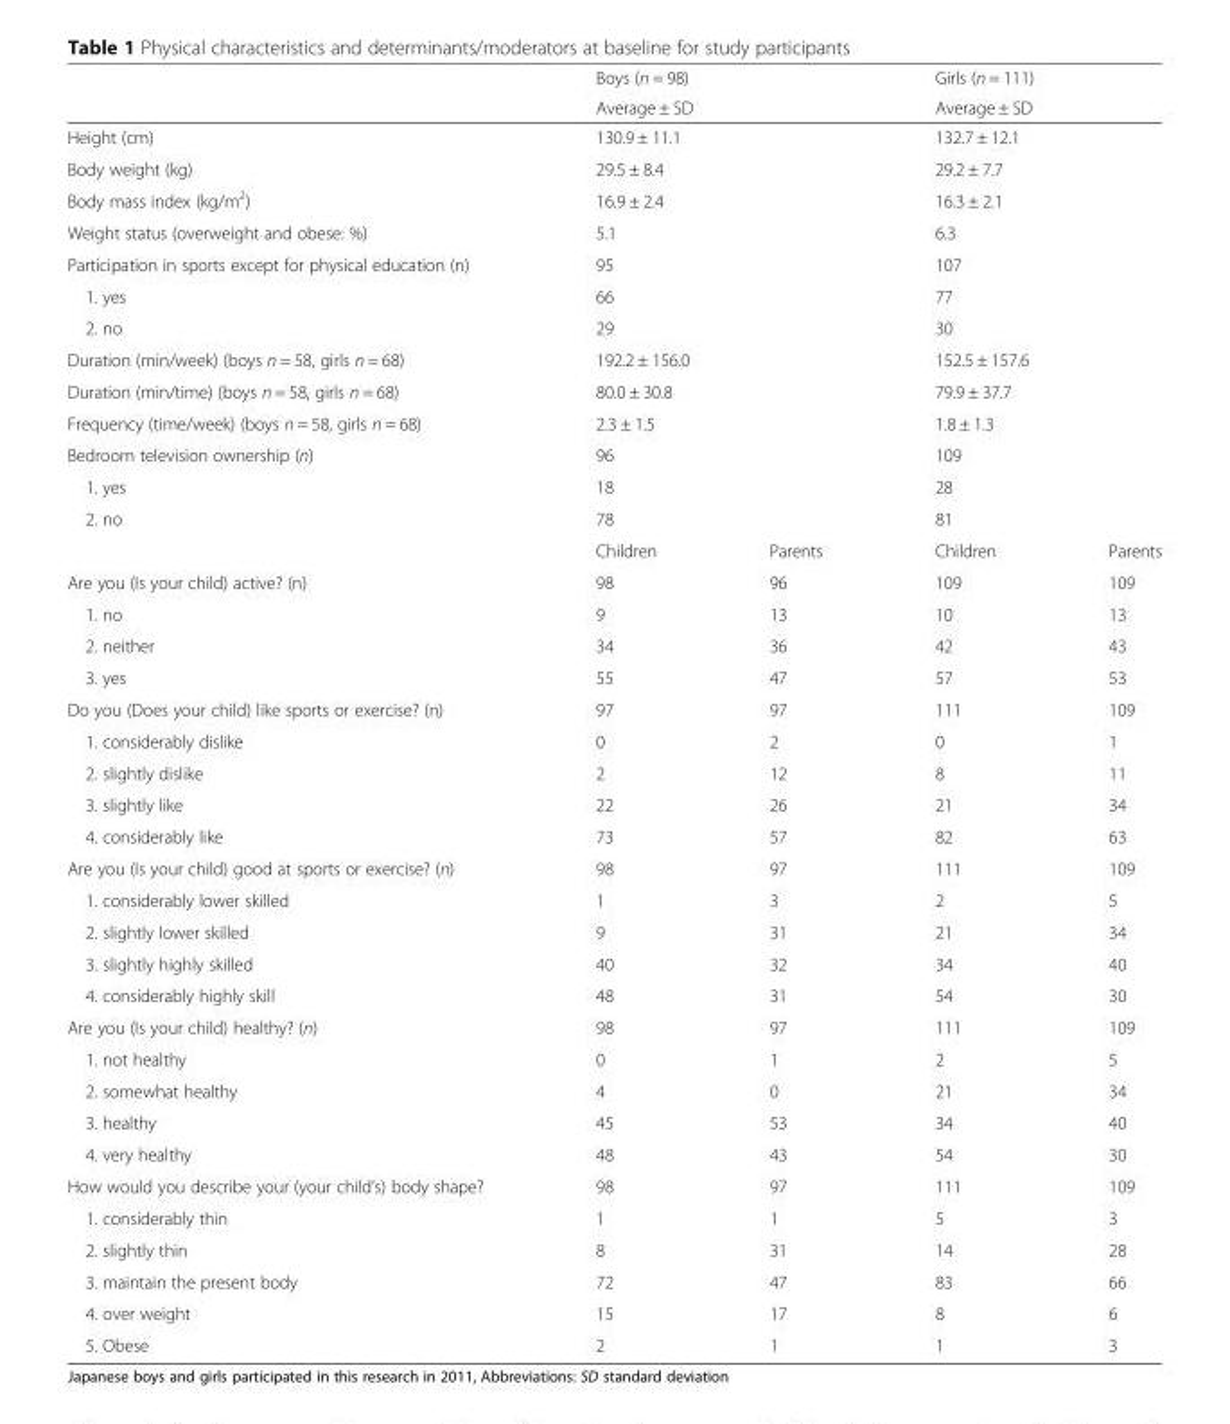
<table><thead><tr><td rowspan="2"></td><td rowspan="2" colspan="2">Boys (n = 98) Average ± SD</td><td rowspan="2" colspan="2">Girls (n = 111) Average ± SD</td></tr><tr></tr></thead><tbody><tr><td>Height (cm)</td><td colspan="2">130.9 ± 11.1</td><td colspan="2">132.7 ± 12.1</td></tr><tr><td>Body weight (kg)</td><td colspan="2">29.5 ± 8.4</td><td colspan="2">29.2 ± 7.7</td></tr><tr><td>Body mass index (kg/m<sup>2</sup>)</td><td colspan="2">16.9 ± 2.4</td><td colspan="2">16.3 ± 2.1</td></tr><tr><td>Weight status (overweight and obese: %)</td><td colspan="2">5.1</td><td colspan="2">6.3</td></tr><tr><td>Participation in sports except for physical education (n)</td><td colspan="2">95</td><td colspan="2">107</td></tr><tr><td>1. yes</td><td colspan="2">66</td><td colspan="2">77</td></tr><tr><td>2. no</td><td colspan="2">29</td><td colspan="2">30</td></tr><tr><td>Duration (min/week) (boys n = 58, girls n = 68)</td><td colspan="2">192.2 ± 156.0</td><td colspan="2">152.5 ± 157.6</td></tr><tr><td>Duration (min/time) (boys n = 58, girls n = 68)</td><td colspan="2">80.0 ± 30.8</td><td colspan="2">79.9 ± 37.7</td></tr><tr><td>Frequency (time/week) (boys n = 58, girls n = 68)</td><td colspan="2">2.3 ± 1.5</td><td colspan="2">1.8 ± 1.3</td></tr><tr><td>Bedroom television ownership (n)</td><td colspan="2">96</td><td colspan="2">109</td></tr><tr><td>1. yes</td><td colspan="2">18</td><td colspan="2">28</td></tr><tr><td rowspan="2">2. no</td><td colspan="2">78</td><td colspan="2">81</td></tr><tr><td>Children</td><td>Parents</td><td>Children</td><td>Parents</td></tr><tr><td>Are you (Is your child) active? (n)</td><td>98</td><td>96</td><td>109</td><td>109</td></tr><tr><td>1. no</td><td>9</td><td>13</td><td>10</td><td>13</td></tr><tr><td>2. neither</td><td>34</td><td>36</td><td>42</td><td>43</td></tr><tr><td>3. yes</td><td>55</td><td>47</td><td>57</td><td>53</td></tr><tr><td>Do you (Does your child) like sports or exercise? (n)</td><td>97</td><td>97</td><td>111</td><td>109</td></tr><tr><td>1. considerably dislike</td><td>0</td><td>2</td><td>0</td><td>1</td></tr><tr><td>2. slightly dislike</td><td>2</td><td>12</td><td>8</td><td>11</td></tr><tr><td>3. slightly like</td><td>22</td><td>26</td><td>21</td><td>34</td></tr><tr><td>4. considerably like</td><td>73</td><td>57</td><td>82</td><td>63</td></tr><tr><td>Are you (Is your child) good at sports or exercise? (n)</td><td>98</td><td>97</td><td>111</td><td>109</td></tr><tr><td>1. considerably lower skilled</td><td>1</td><td>3</td><td>2</td><td>5</td></tr><tr><td>2. slightly lower skilled</td><td>9</td><td>31</td><td>21</td><td>34</td></tr><tr><td>3. slightly highly skilled</td><td>40</td><td>32</td><td>34</td><td>40</td></tr><tr><td>4. considerably highly skill</td><td>48</td><td>31</td><td>54</td><td>30</td></tr><tr><td>Are you (Is your child) healthy? (n)</td><td>98</td><td>97</td><td>111</td><td>109</td></tr><tr><td>1. not healthy</td><td>0</td><td>1</td><td>2</td><td>5</td></tr><tr><td>2. somewhat healthy</td><td>4</td><td>0</td><td>21</td><td>34</td></tr><tr><td>3. healthy</td><td>45</td><td>53</td><td>34</td><td>40</td></tr><tr><td>4. very healthy</td><td>48</td><td>43</td><td>54</td><td>30</td></tr><tr><td>How would you describe your (your child’s) body shape?</td><td>98</td><td>97</td><td>111</td><td>109</td></tr><tr><td>1. considerably thin</td><td>1</td><td>1</td><td>5</td><td>3</td></tr><tr><td>2. slightly thin</td><td>8</td><td>31</td><td>14</td><td>28</td></tr><tr><td>3. maintain the present body</td><td>72</td><td>47</td><td>83</td><td>66</td></tr><tr><td>4. over weight</td><td>15</td><td>17</td><td>8</td><td>6</td></tr><tr><td>5. Obese</td><td>2</td><td>1</td><td>1</td><td>3</td></tr></tbody></table>